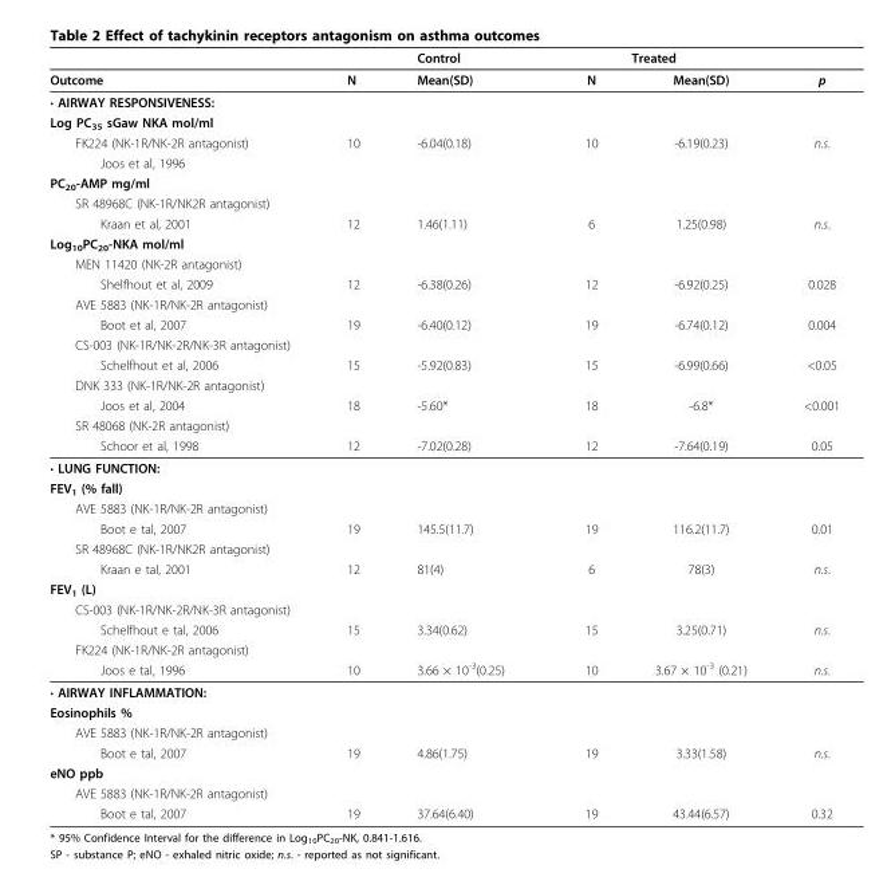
<table><thead><tr><td></td><td></td><td>Control</td><td></td><td>Treated</td><td></td></tr></thead><tbody><tr><td>Outcome</td><td>N</td><td>Mean(SD)</td><td>N</td><td>Mean(SD)</td><td>p</td></tr><tr><td colspan="6">• AIRWAY RESPONSIVENESS:</td></tr><tr><td colspan="6">Log PC<sub>35</sub> sGaw NKA mol/ml</td></tr><tr><td>FK224 (NK-1R/NK-2R antagonist)</td><td>10</td><td>-6.04(0.18)</td><td>10</td><td>-6.19(0.23)</td><td>n.s.</td></tr><tr><td colspan="6">Joos et al, 1996</td></tr><tr><td colspan="6">PC<sub>20</sub>-AMP mg/ml</td></tr><tr><td colspan="6">SR 48968C (NK-1R/NK2R antagonist)</td></tr><tr><td>Kraan et al, 2001</td><td>12</td><td>1.46(1.11)</td><td>6</td><td>1.25(0.98)</td><td>n.s.</td></tr><tr><td colspan="6">Log<sub>10</sub>PC<sub>20</sub>-NKA mol/ml</td></tr><tr><td colspan="6">MEN 11420 (NK-2R antagonist)</td></tr><tr><td>Shelfhout et al, 2009</td><td>12</td><td>-6.38(0.26)</td><td>12</td><td>-6.92(0.25)</td><td>0.028</td></tr><tr><td colspan="6">AVE 5883 (NK-1R/NK-2R antagonist)</td></tr><tr><td>Boot et al, 2007</td><td>19</td><td>-6.40(0.12)</td><td>19</td><td>-6.74(0.12)</td><td>0.004</td></tr><tr><td colspan="6">CS-003 (NK-1R/NK-2R/NK-3R antagonist)</td></tr><tr><td>Schelfhout et al, 2006</td><td>15</td><td>-5.92(0.83)</td><td>15</td><td>-6.99(0.66)</td><td>&lt;0.05</td></tr><tr><td colspan="6">DNK 333 (NK-1R/NK-2R antagonist)</td></tr><tr><td>Joos et al, 2004</td><td>18</td><td>-5.60*</td><td>18</td><td>-6.8*</td><td>&lt;0.001</td></tr><tr><td colspan="6">SR 48068 (NK-2R antagonist)</td></tr><tr><td>Schoor et al, 1998</td><td>12</td><td>-7.02(0.28)</td><td>12</td><td>-7.64(0.19)</td><td>0.05</td></tr><tr><td colspan="6">• LUNG FUNCTION:</td></tr><tr><td colspan="6">FEV<sub>1</sub> (% fall)</td></tr><tr><td colspan="6">AVE 5883 (NK-1R/NK-2R antagonist)</td></tr><tr><td>Boot e tal, 2007</td><td>19</td><td>145.5(11.7)</td><td>19</td><td>116.2(11.7)</td><td>0.01</td></tr><tr><td colspan="6">SR 48968C (NK-1R/NK2R antagonist)</td></tr><tr><td>Kraan e tal, 2001</td><td>12</td><td>81(4)</td><td>6</td><td>78(3)</td><td>n.s.</td></tr><tr><td colspan="6">FEV<sub>1</sub> (L)</td></tr><tr><td colspan="6">CS-003 (NK-1R/NK-2R/NK-3R antagonist)</td></tr><tr><td>Schelfhout e tal, 2006</td><td>15</td><td>3.34(0.62)</td><td>15</td><td>3.25(0.71)</td><td>n.s.</td></tr><tr><td colspan="6">FK224 (NK-1R/NK-2R antagonist)</td></tr><tr><td>Joos e tal, 1996</td><td>10</td><td>3.66 × 10<sup>-3</sup>(0.25)</td><td>10</td><td>3.67 × 10<sup>-3</sup> (0.21)</td><td>n.s.</td></tr><tr><td colspan="6">• AIRWAY INFLAMMATION:</td></tr><tr><td colspan="6">Eosinophils %</td></tr><tr><td colspan="6">AVE 5883 (NK-1R/NK-2R antagonist)</td></tr><tr><td>Boot e tal, 2007</td><td>19</td><td>4.86(1.75)</td><td>19</td><td>3.33(1.58)</td><td>n.s.</td></tr><tr><td colspan="6">eNO ppb</td></tr><tr><td colspan="6">AVE 5883 (NK-1R/NK-2R antagonist)</td></tr><tr><td>Boot e tal, 2007</td><td>19</td><td>37.64(6.40)</td><td>19</td><td>43.44(6.57)</td><td>0.32</td></tr></tbody></table>